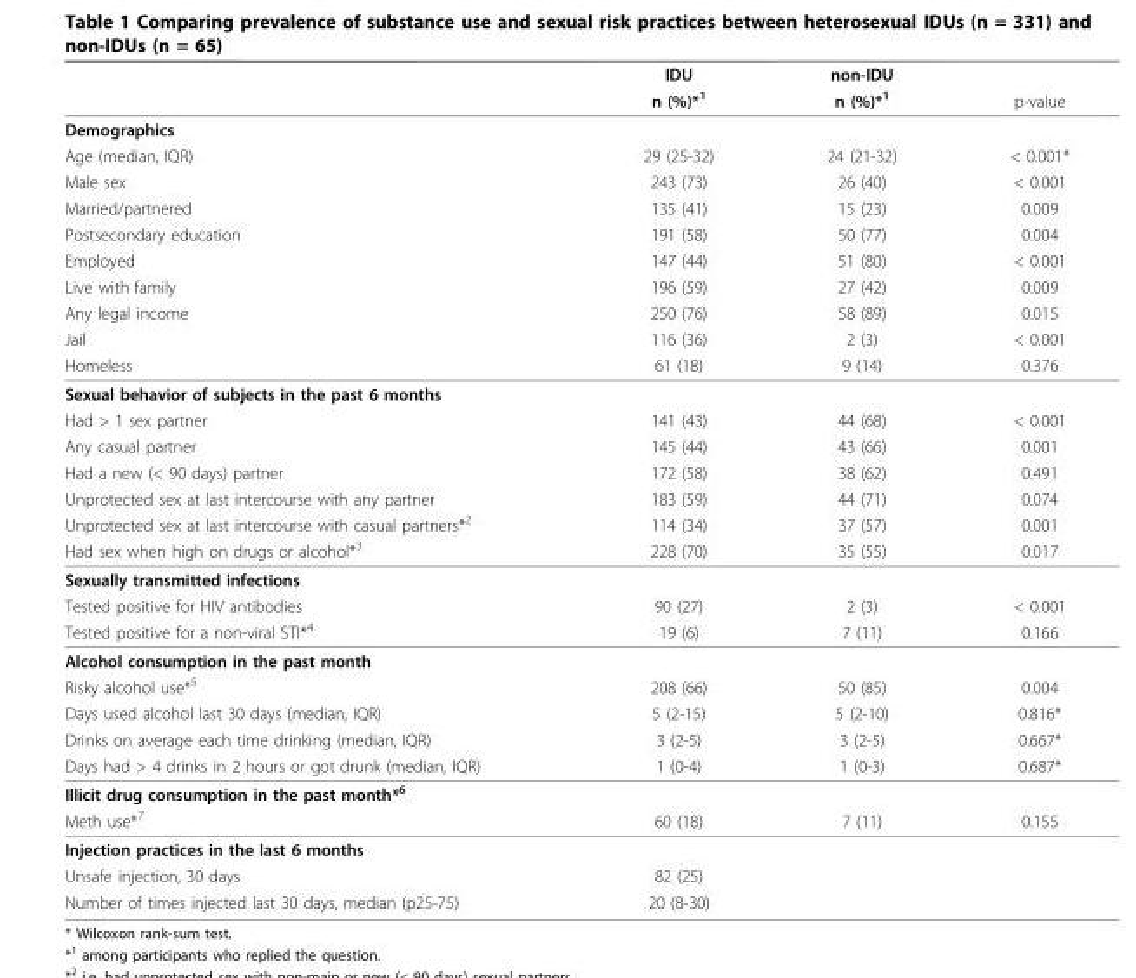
<table><thead><tr><td rowspan="2"></td><td rowspan="2">IDU n (%)*<sup>1</sup></td><td rowspan="2">non-IDU n (%)*<sup>1</sup></td><td rowspan="2">p-value</td></tr><tr></tr></thead><tbody><tr><td colspan="4">Demographics</td></tr><tr><td>Age (median, IQR)</td><td>29 (25-32)</td><td>24 (21-32)</td><td>&lt; 0.001*</td></tr><tr><td>Male sex</td><td>243 (73)</td><td>26 (40)</td><td>&lt; 0.001</td></tr><tr><td>Married/partnered</td><td>135 (41)</td><td>15 (23)</td><td>0.009</td></tr><tr><td>Postsecondary education</td><td>191 (58)</td><td>50 (77)</td><td>0.004</td></tr><tr><td>Employed</td><td>147 (44)</td><td>51 (80)</td><td>&lt; 0.001</td></tr><tr><td>Live with family</td><td>196 (59)</td><td>27 (42)</td><td>0.009</td></tr><tr><td>Any legal income</td><td>250 (76)</td><td>58 (89)</td><td>0.015</td></tr><tr><td>Jail</td><td>116 (36)</td><td>2 (3)</td><td>&lt; 0.001</td></tr><tr><td>Homeless</td><td>61 (18)</td><td>9 (14)</td><td>0.376</td></tr><tr><td colspan="4">Sexual behavior of subjects in the past 6 months</td></tr><tr><td>Had &gt; 1 sex partner</td><td>141 (43)</td><td>44 (68)</td><td>&lt; 0.001</td></tr><tr><td>Any casual partner</td><td>145 (44)</td><td>43 (66)</td><td>0.001</td></tr><tr><td>Had a new (&lt; 90 days) partner</td><td>172 (58)</td><td>38 (62)</td><td>0.491</td></tr><tr><td>Unprotected sex at last intercourse with any partner</td><td>183 (59)</td><td>44 (71)</td><td>0.074</td></tr><tr><td>Unprotected sex at last intercourse with casual partners*<sup>2</sup></td><td>114 (34)</td><td>37 (57)</td><td>0.001</td></tr><tr><td>Had sex when high on drugs or alcohol*<sup>3</sup></td><td>228 (70)</td><td>35 (55)</td><td>0.017</td></tr><tr><td colspan="4">Sexually transmitted infections</td></tr><tr><td>Tested positive for HIV antibodies</td><td>90 (27)</td><td>2 (3)</td><td>&lt; 0.001</td></tr><tr><td>Tested positive for a non-viral STI*<sup>4</sup></td><td>19 (6)</td><td>7 (11)</td><td>0.166</td></tr><tr><td colspan="4">Alcohol consumption in the past month</td></tr><tr><td>Risky alcohol use*<sup>5</sup></td><td>208 (66)</td><td>50 (85)</td><td>0.004</td></tr><tr><td>Days used alcohol last 30 days (median, IQR)</td><td>5 (2-15)</td><td>5 (2-10)</td><td>0.816*</td></tr><tr><td>Drinks on average each time drinking (median, IQR)</td><td>3 (2-5)</td><td>3 (2-5)</td><td>0.667*</td></tr><tr><td>Days had &gt; 4 drinks in 2 hours or got drunk (median, IQR)</td><td>1 (0-4)</td><td>1 (0-3)</td><td>0.687*</td></tr><tr><td colspan="4">Illicit drug consumption in the past month*<sup>6</sup></td></tr><tr><td>Meth use*<sup>7</sup></td><td>60 (18)</td><td>7 (11)</td><td>0.155</td></tr><tr><td colspan="4">Injection practices in the last 6 months</td></tr><tr><td>Unsafe injection, 30 days</td><td>82 (25)</td><td></td><td></td></tr><tr><td>Number of times injected last 30 days, median (p25-75)</td><td>20 (8-30)</td><td></td><td></td></tr></tbody></table>